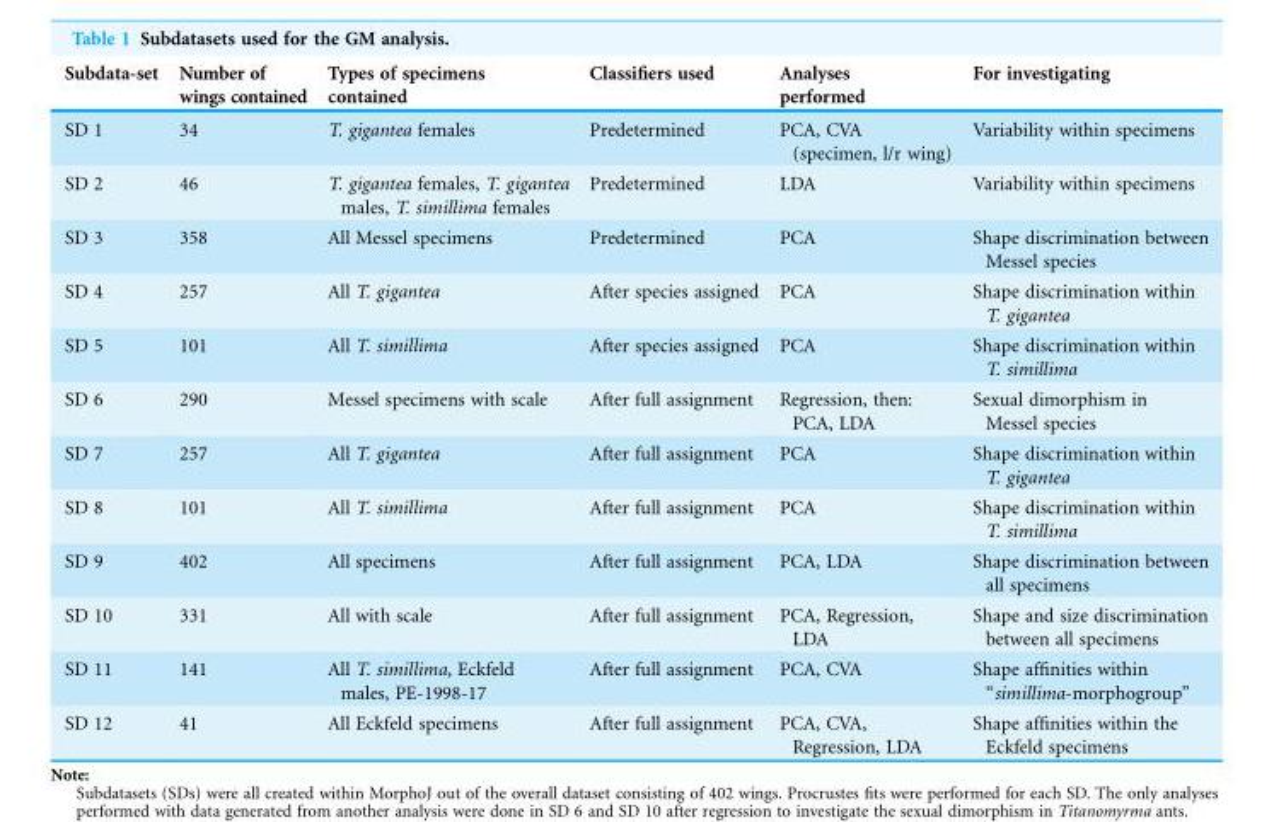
<table><thead><tr><td>Subdata-set</td><td>Number of wings contained</td><td>Types of specimens contained</td><td>Classifiers used</td><td>Analyses performed</td><td>For investigating</td></tr></thead><tbody><tr><td>SD 1</td><td>34</td><td>T. gigantea females</td><td>Predetermined</td><td>PCA, CVA (specimen, l/r wing)</td><td>Variability within specimens</td></tr><tr><td>SD 2</td><td>46</td><td>T. gigantea females, T. gigantea males, T. simillima females</td><td>Predetermined</td><td>LDA</td><td>Variability within specimens</td></tr><tr><td>SD 3</td><td>358</td><td>All Messel specimens</td><td>Predetermined</td><td>PCA</td><td>Shape discrimination between Messel species</td></tr><tr><td>SD 4</td><td>257</td><td>All T. gigantea</td><td>After species assigned</td><td>PCA</td><td>Shape discrimination within T. gigantea</td></tr><tr><td>SD 5</td><td>101</td><td>All T. simillima</td><td>After species assigned</td><td>PCA</td><td>Shape discrimination within T. simillima</td></tr><tr><td>SD 6</td><td>290</td><td>Messel specimens with scale</td><td>After full assignment</td><td>Regression, then: PCA, LDA</td><td>Sexual dimorphism in Messel species</td></tr><tr><td>SD 7</td><td>257</td><td>All T. gigantea</td><td>After full assignment</td><td>PCA</td><td>Shape discrimination within T. gigantea</td></tr><tr><td>SD 8</td><td>101</td><td>All T. simillima</td><td>After full assignment</td><td>PCA</td><td>Shape discrimination within T. simillima</td></tr><tr><td>SD 9</td><td>402</td><td>All specimens</td><td>After full assignment</td><td>PCA, LDA</td><td>Shape discrimination between all specimens</td></tr><tr><td>SD 10</td><td>331</td><td>All with scale</td><td>After full assignment</td><td>PCA, Regression, LDA</td><td>Shape and size discrimination between all specimens</td></tr><tr><td>SD 11</td><td>141</td><td>All T. simillima, Eckfeld males, PE-1998-17</td><td>After full assignment</td><td>PCA, CVA</td><td>Shape affinities within “simillima-morphogroup”</td></tr><tr><td>SD 12</td><td>41</td><td>All Eckfeld specimens</td><td>After full assignment</td><td>PCA, CVA, Regression, LDA</td><td>Shape affinities within the Eckfeld specimens</td></tr></tbody></table>